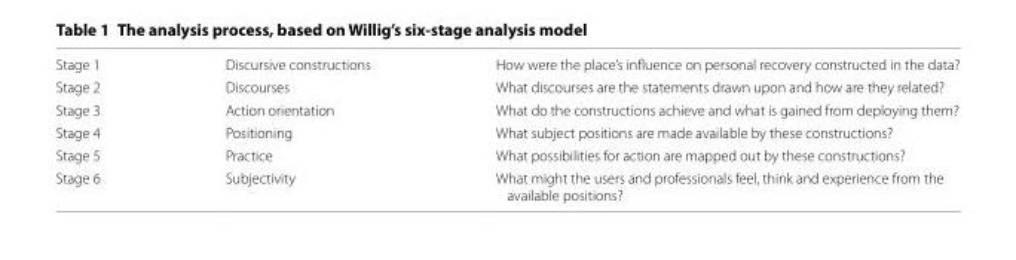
<table><tbody><tr><td>Stage 1</td><td>Discursive constructions</td><td>How were the place’s influence on personal recovery constructed in the data?</td></tr><tr><td>Stage 2</td><td>Discourses</td><td>What discourses are the statements drawn upon and how are they related?</td></tr><tr><td>Stage 3</td><td>Action orientation</td><td>What do the constructions achieve and what is gained from deploying them?</td></tr><tr><td>Stage 4</td><td>Positioning</td><td>What subject positions are made available by these constructions?</td></tr><tr><td>Stage 5</td><td>Practice</td><td>What possibilities for action are mapped out by these constructions?</td></tr><tr><td>Stage 6</td><td>Subjectivity</td><td>What might the users and professionals feel, think and experience from the available positions?</td></tr></tbody></table>